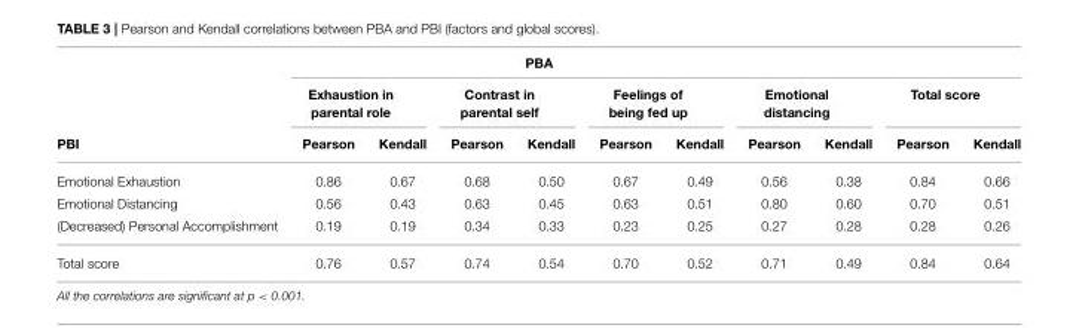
<table><thead><tr><td rowspan="3">PBI</td><td colspan="10">PBA</td></tr><tr><td colspan="2">Exhaustion in parental role</td><td colspan="2">Contrast in parental self</td><td colspan="2">Feelings of being fed up</td><td colspan="2">Emotional distancing</td><td colspan="2">Total score</td></tr><tr><td>Pearson</td><td>Kendall</td><td>Pearson</td><td>Kendall</td><td>Pearson</td><td>Kendall</td><td>Pearson</td><td>Kendall</td><td>Pearson</td><td>Kendall</td></tr></thead><tbody><tr><td>Emotional Exhaustion</td><td>0.86</td><td>0.67</td><td>0.68</td><td>0.50</td><td>0.67</td><td>0.49</td><td>0.56</td><td>0.38</td><td>0.84</td><td>0.66</td></tr><tr><td>Emotional Distancing</td><td>0.56</td><td>0.43</td><td>0.63</td><td>0.45</td><td>0.63</td><td>0.51</td><td>0.80</td><td>0.60</td><td>0.70</td><td>0.51</td></tr><tr><td>(Decreased) Personal Accomplishment</td><td>0.19</td><td>0.19</td><td>0.34</td><td>0.33</td><td>0.23</td><td>0.25</td><td>0.27</td><td>0.28</td><td>0.28</td><td>0.26</td></tr><tr><td>Total score</td><td>0.76</td><td>0.57</td><td>0.74</td><td>0.54</td><td>0.70</td><td>0.52</td><td>0.71</td><td>0.49</td><td>0.84</td><td>0.64</td></tr></tbody></table>